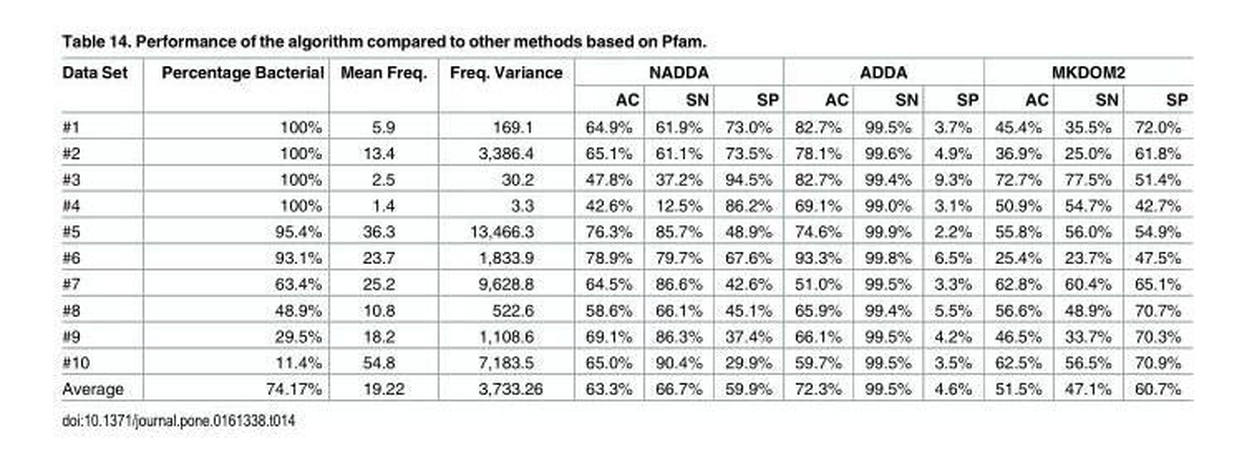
<table><thead><tr><td rowspan="2">Data Set</td><td rowspan="2">Percentage Bacterial</td><td rowspan="2">Mean Freq.</td><td rowspan="2">Freq. Variance</td><td colspan="3">NADDA</td><td colspan="3">ADDA</td><td colspan="3">MKDOM2</td></tr><tr><td>AC</td><td>SN</td><td>SP</td><td>AC</td><td>SN</td><td>SP</td><td>AC</td><td>SN</td><td>SP</td></tr></thead><tbody><tr><td>#1</td><td>100%</td><td>5.9</td><td>169.1</td><td>64.9%</td><td>61.9%</td><td>73.0%</td><td>82.7%</td><td>99.5%</td><td>3.7%</td><td>45.4%</td><td>35.5%</td><td>72.0%</td></tr><tr><td>#2</td><td>100%</td><td>13.4</td><td>3,386.4</td><td>65.1%</td><td>61.1%</td><td>73.5%</td><td>78.1%</td><td>99.6%</td><td>4.9%</td><td>36.9%</td><td>25.0%</td><td>61.8%</td></tr><tr><td>#3</td><td>100%</td><td>2.5</td><td>30.2</td><td>47.8%</td><td>37.2%</td><td>94.5%</td><td>82.7%</td><td>99.4%</td><td>9.3%</td><td>72.7%</td><td>77.5%</td><td>51.4%</td></tr><tr><td>#4</td><td>100%</td><td>1.4</td><td>3.3</td><td>42.6%</td><td>12.5%</td><td>86.2%</td><td>69.1%</td><td>99.0%</td><td>3.1%</td><td>50.9%</td><td>54.7%</td><td>42.7%</td></tr><tr><td>#5</td><td>95.4%</td><td>36.3</td><td>13,466.3</td><td>76.3%</td><td>85.7%</td><td>48.9%</td><td>74.6%</td><td>99.9%</td><td>2.2%</td><td>55.8%</td><td>56.0%</td><td>54.9%</td></tr><tr><td>#6</td><td>93.1%</td><td>23.7</td><td>1,833.9</td><td>78.9%</td><td>79.7%</td><td>67.6%</td><td>93.3%</td><td>99.8%</td><td>6.5%</td><td>25.4%</td><td>23.7%</td><td>47.5%</td></tr><tr><td>#7</td><td>63.4%</td><td>25.2</td><td>9,628.8</td><td>64.5%</td><td>86.6%</td><td>42.6%</td><td>51.0%</td><td>99.5%</td><td>3.3%</td><td>62.8%</td><td>60.4%</td><td>65.1%</td></tr><tr><td>#8</td><td>48.9%</td><td>10.8</td><td>522.6</td><td>58.6%</td><td>66.1%</td><td>45.1%</td><td>65.9%</td><td>99.4%</td><td>5.5%</td><td>56.6%</td><td>48.9%</td><td>70.7%</td></tr><tr><td>#9</td><td>29.5%</td><td>18.2</td><td>1,108.6</td><td>69.1%</td><td>86.3%</td><td>37.4%</td><td>66.1%</td><td>99.5%</td><td>4.2%</td><td>46.5%</td><td>33.7%</td><td>70.3%</td></tr><tr><td>#10</td><td>11.4%</td><td>54.8</td><td>7,183.5</td><td>65.0%</td><td>90.4%</td><td>29.9%</td><td>59.7%</td><td>99.5%</td><td>3.5%</td><td>62.5%</td><td>56.5%</td><td>70.9%</td></tr><tr><td>Average</td><td>74.17%</td><td>19.22</td><td>3,733.26</td><td>63.3%</td><td>66.7%</td><td>59.9%</td><td>72.3%</td><td>99.5%</td><td>4.6%</td><td>51.5%</td><td>47.1%</td><td>60.7%</td></tr></tbody></table>